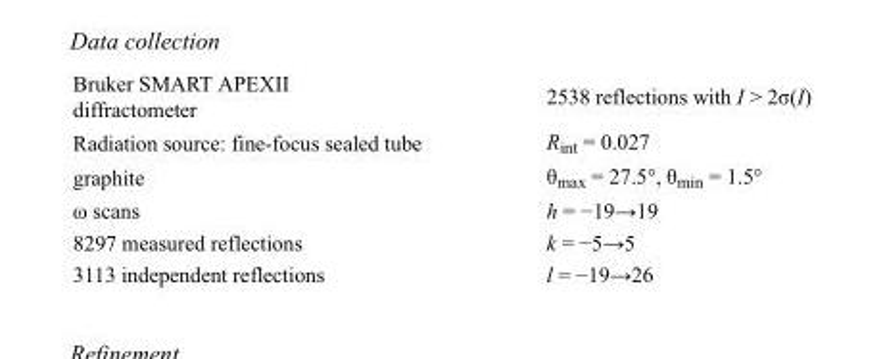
<table><tbody><tr><td>Bruker SMART APEXII diffractometer</td><td>2538 reflections with I &gt; 2σ(I)</td></tr><tr><td>Radiation source: fine-focus sealed tube</td><td>R<sub>int</sub> = 0.027</td></tr><tr><td>graphite</td><td>θ<sub>max</sub> = 27.5°, θ<sub>min</sub> = 1.5°</td></tr><tr><td>ω scans</td><td>h = −19→19</td></tr><tr><td>8297 measured reflections</td><td>k = −5→5</td></tr><tr><td>3113 independent reflections</td><td>l = −19→26</td></tr></tbody></table>